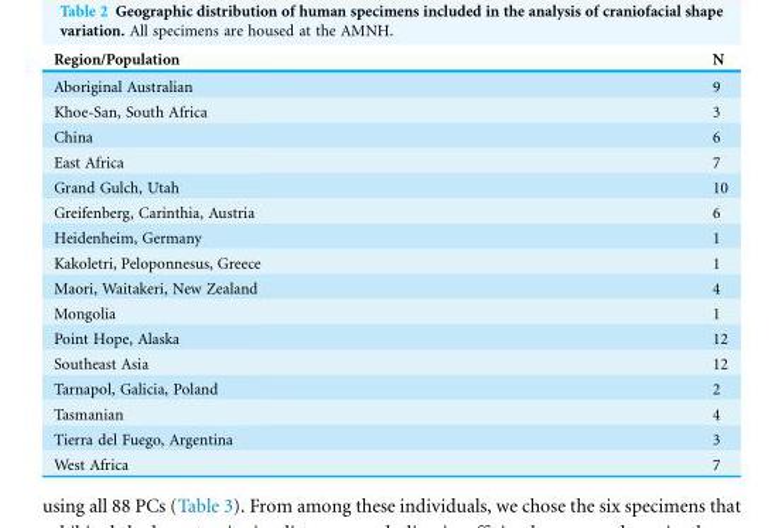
<table><thead><tr><td>Region/Population</td><td>N</td></tr></thead><tbody><tr><td>Aboriginal Australian</td><td>9</td></tr><tr><td>Khoe-San, South Africa</td><td>3</td></tr><tr><td>China</td><td>6</td></tr><tr><td>East Africa</td><td>7</td></tr><tr><td>Grand Gulch, Utah</td><td>10</td></tr><tr><td>Greifenberg, Carinthia, Austria</td><td>6</td></tr><tr><td>Heidenheim, Germany</td><td>1</td></tr><tr><td>Kakoletri, Peloponnesus, Greece</td><td>1</td></tr><tr><td>Maori, Waitakeri, New Zealand</td><td>4</td></tr><tr><td>Mongolia</td><td>1</td></tr><tr><td>Point Hope, Alaska</td><td>12</td></tr><tr><td>Southeast Asia</td><td>12</td></tr><tr><td>Tarnapol, Galicia, Poland</td><td>2</td></tr><tr><td>Tasmanian</td><td>4</td></tr><tr><td>Tierra del Fuego, Argentina</td><td>3</td></tr><tr><td>West Africa</td><td>7</td></tr></tbody></table>